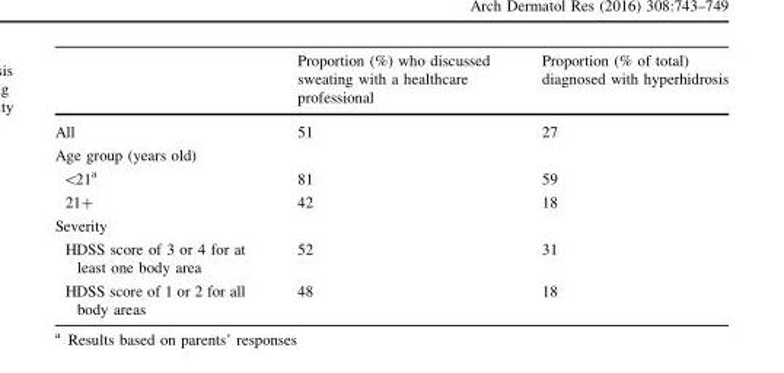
<table><thead><tr><td></td><td>Proportion (%) who discussed sweating with a healthcare professional</td><td>Proportion (% of total) diagnosed with hyperhidrosis</td></tr></thead><tbody><tr><td>All</td><td>51</td><td>27</td></tr><tr><td colspan="3">Age group (years old)</td></tr><tr><td>&lt;21<sup>a</sup></td><td>81</td><td>59</td></tr><tr><td>21+</td><td>42</td><td>18</td></tr><tr><td colspan="3">Severity</td></tr><tr><td>HDSS score of 3 or 4 for at least one body area</td><td>52</td><td>31</td></tr><tr><td>HDSS score of 1 or 2 for all body areas</td><td>48</td><td>18</td></tr></tbody></table>